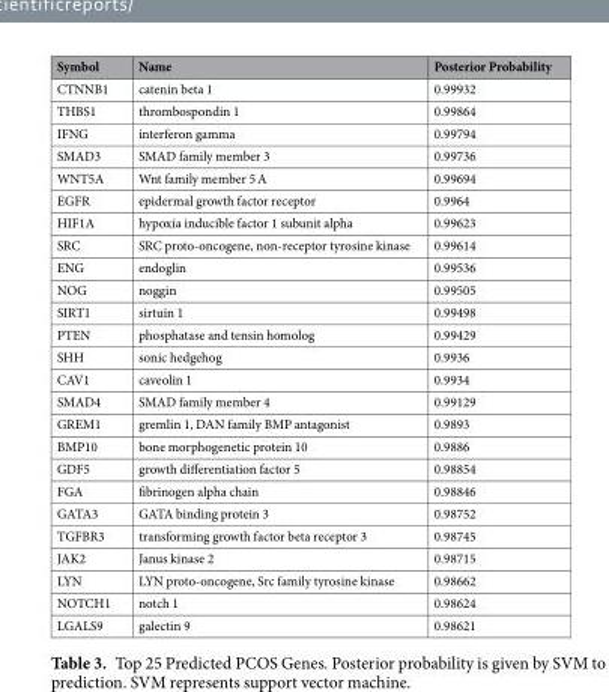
<table><thead><tr><td>Symbol</td><td>Name</td><td>Posterior Probability</td></tr></thead><tbody><tr><td>CTNNB1</td><td>catenin beta 1</td><td>0.99932</td></tr><tr><td>THBS1</td><td>thrombospondin 1</td><td>0.99864</td></tr><tr><td>IFNG</td><td>interferon gamma</td><td>0.99794</td></tr><tr><td>SMAD3</td><td>SMAD family member 3</td><td>0.99736</td></tr><tr><td>WNT5A</td><td>Wnt family member 5 A</td><td>0.99694</td></tr><tr><td>EGFR</td><td>epidermal growth factor receptor</td><td>0.9964</td></tr><tr><td>HIF1A</td><td>hypoxia inducible factor 1 subunit alpha</td><td>0.99623</td></tr><tr><td>SRC</td><td>SRC proto-oncogene, non-receptor tyrosine kinase</td><td>0.99614</td></tr><tr><td>ENG</td><td>endoglin</td><td>0.99536</td></tr><tr><td>NOG</td><td>noggin</td><td>0.99505</td></tr><tr><td>SIRT1</td><td>sirtuin 1</td><td>0.99498</td></tr><tr><td>PTEN</td><td>phosphatase and tensin homolog</td><td>0.99429</td></tr><tr><td>SHH</td><td>sonic hedgehog</td><td>0.9936</td></tr><tr><td>CAV1</td><td>caveolin 1</td><td>0.9934</td></tr><tr><td>SMAD4</td><td>SMAD family member 4</td><td>0.99129</td></tr><tr><td>GREM1</td><td>gremlin 1, DAN family BMP antagonist</td><td>0.9893</td></tr><tr><td>BMP10</td><td>bone morphogenetic protein 10</td><td>0.9886</td></tr><tr><td>GDF5</td><td>growth differentiation factor 5</td><td>0.98854</td></tr><tr><td>FGA</td><td>fibrinogen alpha chain</td><td>0.98846</td></tr><tr><td>GATA3</td><td>GATA binding protein 3</td><td>0.98752</td></tr><tr><td>TGFBR3</td><td>transforming growth factor beta receptor 3</td><td>0.98745</td></tr><tr><td>JAK2</td><td>Janus kinase 2</td><td>0.98715</td></tr><tr><td>LYN</td><td>LYN proto-oncogene, Src family tyrosine kinase</td><td>0.98662</td></tr><tr><td>NOTCH1</td><td>notch 1</td><td>0.98624</td></tr><tr><td>LGALS9</td><td>galectin 9</td><td>0.98621</td></tr></tbody></table>